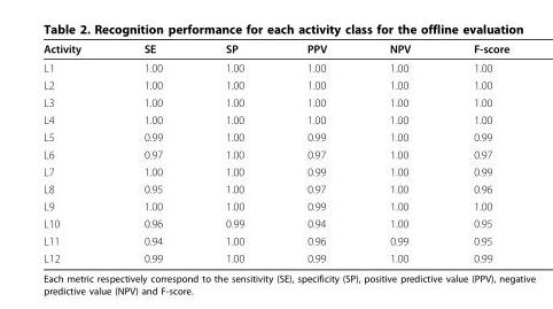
<table><thead><tr><td>Activity</td><td>SE</td><td>SP</td><td>PPV</td><td>NPV</td><td>F-score</td></tr></thead><tbody><tr><td>L1</td><td>1.00</td><td>1.00</td><td>1.00</td><td>1.00</td><td>1.00</td></tr><tr><td>L2</td><td>1.00</td><td>1.00</td><td>1.00</td><td>1.00</td><td>1.00</td></tr><tr><td>L3</td><td>1.00</td><td>1.00</td><td>1.00</td><td>1.00</td><td>1.00</td></tr><tr><td>L4</td><td>1.00</td><td>1.00</td><td>1.00</td><td>1.00</td><td>1.00</td></tr><tr><td>L5</td><td>0.99</td><td>1.00</td><td>0.99</td><td>1.00</td><td>0.99</td></tr><tr><td>L6</td><td>0.97</td><td>1.00</td><td>0.97</td><td>1.00</td><td>0.97</td></tr><tr><td>L7</td><td>1.00</td><td>1.00</td><td>0.99</td><td>1.00</td><td>0.99</td></tr><tr><td>L8</td><td>0.95</td><td>1.00</td><td>0.97</td><td>1.00</td><td>0.96</td></tr><tr><td>L9</td><td>1.00</td><td>1.00</td><td>0.99</td><td>1.00</td><td>1.00</td></tr><tr><td>L10</td><td>0.96</td><td>0.99</td><td>0.94</td><td>1.00</td><td>0.95</td></tr><tr><td>L11</td><td>0.94</td><td>1.00</td><td>0.96</td><td>0.99</td><td>0.95</td></tr><tr><td>L12</td><td>0.99</td><td>1.00</td><td>0.99</td><td>1.00</td><td>0.99</td></tr></tbody></table>